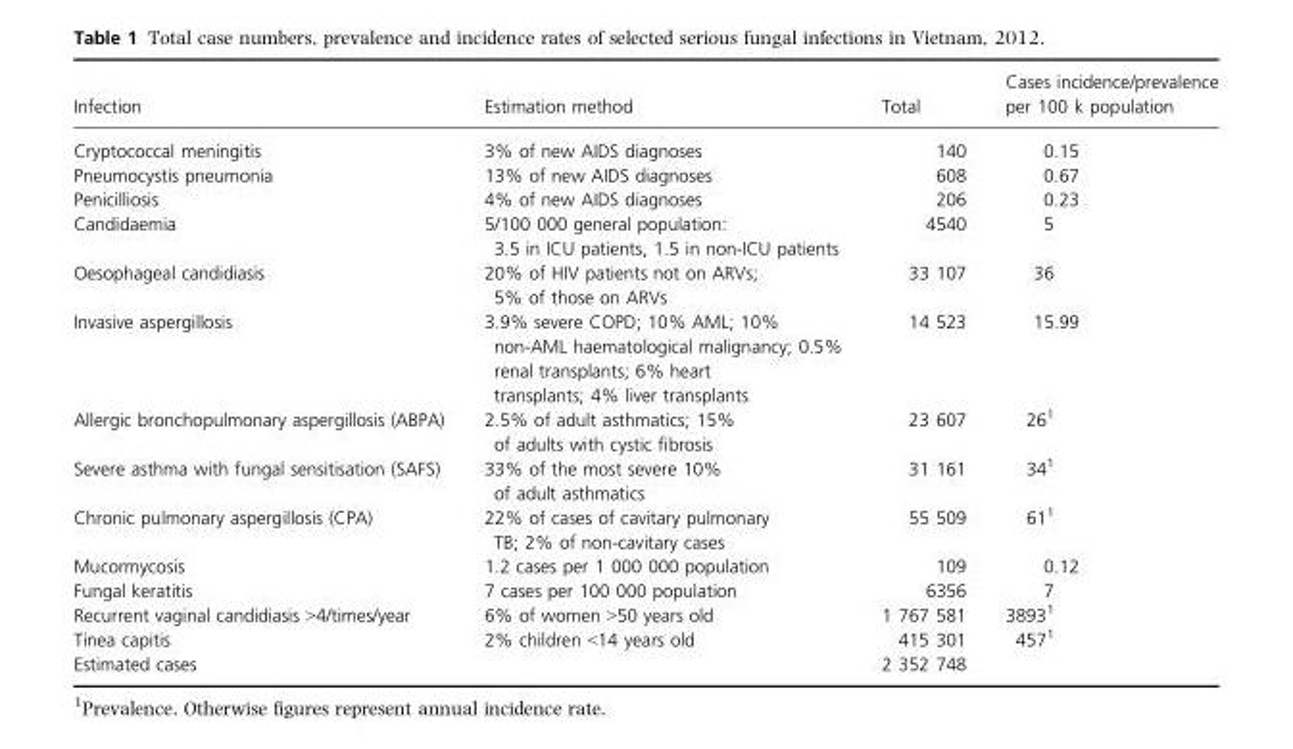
<table><thead><tr><td>Infection</td><td>Estimation method</td><td>Total</td><td>Cases incidence/prevalence per 100 k population</td></tr></thead><tbody><tr><td>Cryptococcal meningitis</td><td>3% of new AIDS diagnoses</td><td>140</td><td>0.15</td></tr><tr><td>Pneumocystis pneumonia</td><td>13% of new AIDS diagnoses</td><td>608</td><td>0.67</td></tr><tr><td>Penicilliosis</td><td>4% of new AIDS diagnoses</td><td>206</td><td>0.23</td></tr><tr><td>Candidaemia</td><td>5/100 000 general population: 3.5 in ICU patients, 1.5 in non-ICU patients</td><td>4540</td><td>5</td></tr><tr><td>Oesophageal candidiasis</td><td>20% of HIV patients not on ARVs; 5% of those on ARVs</td><td>33 107</td><td>36</td></tr><tr><td>Invasive aspergillosis</td><td>3.9% severe COPD; 10% AML; 10% non-AML haematological malignancy; 0.5% renal transplants; 6% heart transplants; 4% liver transplants</td><td>14 523</td><td>15.99</td></tr><tr><td>Allergic bronchopulmonary aspergillosis (ABPA)</td><td>2.5% of adult asthmatics; 15% of adults with cystic fibrosis</td><td>23 607</td><td>261</td></tr><tr><td>Severe asthma with fungal sensitisation (SAFS)</td><td>33% of the most severe 10% of adult asthmatics</td><td>31 161</td><td>341</td></tr><tr><td>Chronic pulmonary aspergillosis (CPA)</td><td>22% of cases of cavitary pulmonary TB; 2% of non-cavitary cases</td><td>55 509</td><td>611</td></tr><tr><td>Mucormycosis</td><td>1.2 cases per 1 000 000 population</td><td>109</td><td>0.12</td></tr><tr><td>Fungal keratitis</td><td>7 cases per 100 000 population</td><td>6356</td><td>7</td></tr><tr><td>Recurrent vaginal candidiasis &gt;4/times/year</td><td>6% of women &gt;50 years old</td><td>1 767 581</td><td>38931</td></tr><tr><td>Tinea capitis</td><td>2% children &lt;14 years old</td><td>415 301</td><td>4571</td></tr><tr><td>Estimated cases</td><td></td><td>2 352 748</td><td></td></tr></tbody></table>